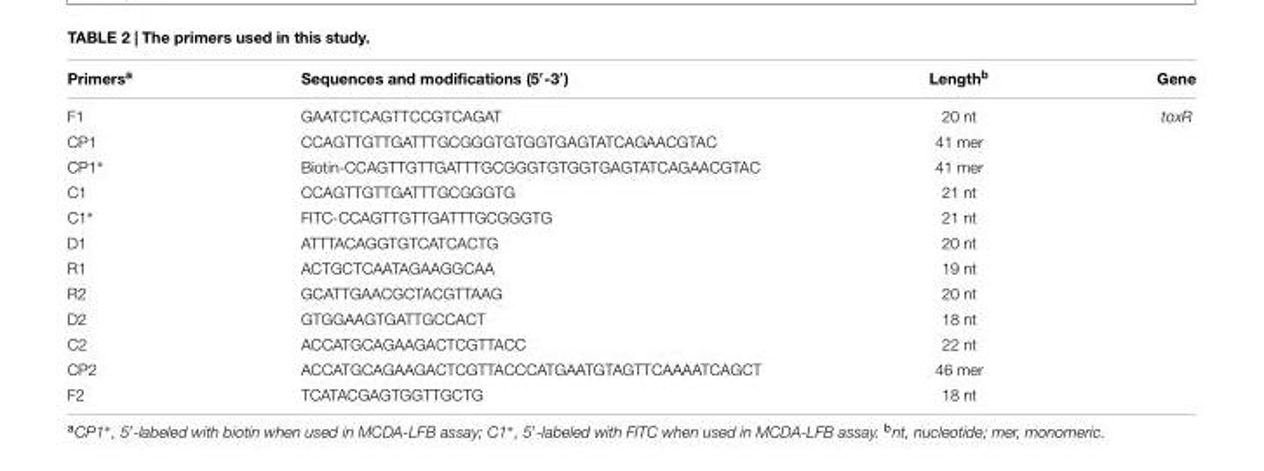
<table><thead><tr><td>Primers<sup>a</sup></td><td>Sequences and modifications (5′-3′)</td><td>Length<sup>b</sup></td><td>Gene</td></tr></thead><tbody><tr><td>F1</td><td>GAATCTCAGTTCCGTCAGAT</td><td>20 nt</td><td>toxR</td></tr><tr><td>CP1</td><td>CCAGTTGTTGATTTGCGGGTGTGGTGAGTATCAGAACGTAC</td><td>41 mer</td><td></td></tr><tr><td>CP1∗</td><td>Biotin-CCAGTTGTTGATTTGCGGGTGTGGTGAGTATCAGAACGTAC</td><td>41 mer</td><td></td></tr><tr><td>C1</td><td>CCAGTTGTTGATTTGCGGGTG</td><td>21 nt</td><td></td></tr><tr><td>C1∗</td><td>FITC-CCAGTTGTTGATTTGCGGGTG</td><td>21 nt</td><td></td></tr><tr><td>D1</td><td>ATTTACAGGTGTCATCACTG</td><td>20 nt</td><td></td></tr><tr><td>R1</td><td>ACTGCTCAATAGAAGGCAA</td><td>19 nt</td><td></td></tr><tr><td>R2</td><td>GCATTGAACGCTACGTTAAG</td><td>20 nt</td><td></td></tr><tr><td>D2</td><td>GTGGAAGTGATTGCCACT</td><td>18 nt</td><td></td></tr><tr><td>C2</td><td>ACCATGCAGAAGACTCGTTACC</td><td>22 nt</td><td></td></tr><tr><td>CP2</td><td>ACCATGCAGAAGACTCGTTACCCATGAATGTAGTTCAAAATCAGCT</td><td>46 mer</td><td></td></tr><tr><td>F2</td><td>TCATACGAGTGGTTGCTG</td><td>18 nt</td><td></td></tr></tbody></table>